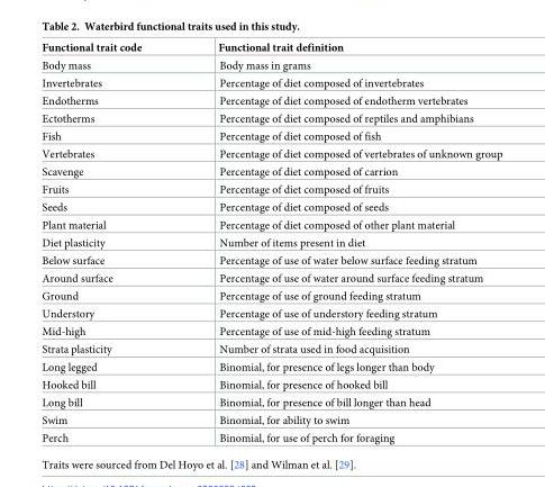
<table><thead><tr><td>Functional trait code</td><td>Functional trait definition</td></tr></thead><tbody><tr><td>Body mass</td><td>Body mass in grams</td></tr><tr><td>Invertebrates</td><td>Percentage of diet composed of invertebrates</td></tr><tr><td>Endotherms</td><td>Percentage of diet composed of endotherm vertebrates</td></tr><tr><td>Ectotherms</td><td>Percentage of diet composed of reptiles and amphibians</td></tr><tr><td>Fish</td><td>Percentage of diet composed of fish</td></tr><tr><td>Vertebrates</td><td>Percentage of diet composed of vertebrates of unknown group</td></tr><tr><td>Scavenge</td><td>Percentage of diet composed of carrion</td></tr><tr><td>Fruits</td><td>Percentage of diet composed of fruits</td></tr><tr><td>Seeds</td><td>Percentage of diet composed of seeds</td></tr><tr><td>Plant material</td><td>Percentage of diet composed of other plant material</td></tr><tr><td>Diet plasticity</td><td>Number of items present in diet</td></tr><tr><td>Below surface</td><td>Percentage of use of water below surface feeding stratum</td></tr><tr><td>Around surface</td><td>Percentage of use of water around surface feeding stratum</td></tr><tr><td>Ground</td><td>Percentage of use of ground feeding stratum</td></tr><tr><td>Understory</td><td>Percentage of use of understory feeding stratum</td></tr><tr><td>Mid-high</td><td>Percentage of use of mid-high feeding stratum</td></tr><tr><td>Strata plasticity</td><td>Number of strata used in food acquisition</td></tr><tr><td>Long legged</td><td>Binomial, for presence of legs longer than body</td></tr><tr><td>Hooked bill</td><td>Binomial, for presence of hooked bill</td></tr><tr><td>Long bill</td><td>Binomial, for presence of bill longer than head</td></tr><tr><td>Swim</td><td>Binomial, for ability to swim</td></tr><tr><td>Perch</td><td>Binomial, for use of perch for foraging</td></tr></tbody></table>